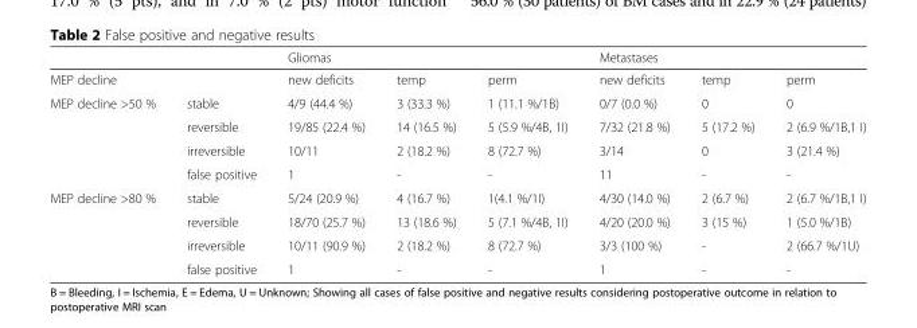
<table><thead><tr><td></td><td></td><td colspan="3">Gliomas</td><td colspan="3">Metastases</td></tr><tr><td colspan="2">MEP decline</td><td>new deficits</td><td>temp</td><td>perm</td><td>new deficits</td><td>temp</td><td>perm</td></tr></thead><tbody><tr><td rowspan="4">MEP decline &gt;50 %</td><td>stable</td><td>4/9 (44.4 %)</td><td>3 (33.3 %)</td><td>1 (11.1 %/1B)</td><td>0/7 (0.0 %)</td><td>0</td><td>0</td></tr><tr><td>reversible</td><td>19/85 (22.4 %)</td><td>14 (16.5 %)</td><td>5 (5.9 %/4B, 1I)</td><td>7/32 (21.8 %)</td><td>5 (17.2 %)</td><td>2 (6.9 %/1B,1 I)</td></tr><tr><td>irreversible</td><td>10/11</td><td>2 (18.2 %)</td><td>8 (72.7 %)</td><td>3/14</td><td>0</td><td>3 (21.4 %)</td></tr><tr><td>false positive</td><td>1</td><td>-</td><td>-</td><td>11</td><td>-</td><td>-</td></tr><tr><td rowspan="4">MEP decline &gt;80 %</td><td>stable</td><td>5/24 (20.9 %)</td><td>4 (16.7 %)</td><td>1(4.1 %/1I)</td><td>4/30 (14.0 %)</td><td>2 (6.7 %)</td><td>2 (6.7 %/1B,1 I)</td></tr><tr><td>reversible</td><td>18/70 (25.7 %)</td><td>13 (18.6 %)</td><td>5 (7.1 %/4B, 1I)</td><td>4/20 (20.0 %)</td><td>3 (15 %)</td><td>1 (5.0 %/1B)</td></tr><tr><td>irreversible</td><td>10/11 (90.9 %)</td><td>2 (18.2 %)</td><td>8 (72.7 %)</td><td>3/3 (100 %)</td><td>-</td><td>2 (66.7 %/1U)</td></tr><tr><td>false positive</td><td>1</td><td>-</td><td>-</td><td>1</td><td>-</td><td>-</td></tr></tbody></table>